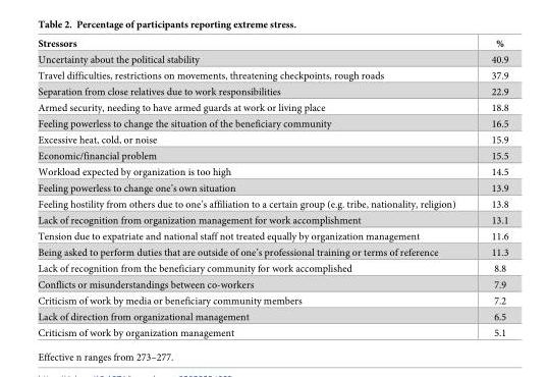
<table><thead><tr><td>Stressors</td><td>%</td></tr></thead><tbody><tr><td>Uncertainty about the political stability</td><td>40.9</td></tr><tr><td>Travel difficulties, restrictions on movements, threatening checkpoints, rough roads</td><td>37.9</td></tr><tr><td>Separation from close relatives due to work responsibilities</td><td>22.9</td></tr><tr><td>Armed security, needing to have armed guards at work or living place</td><td>18.8</td></tr><tr><td>Feeling powerless to change the situation of the beneficiary community</td><td>16.5</td></tr><tr><td>Excessive heat, cold, or noise</td><td>15.9</td></tr><tr><td>Economic/financial problem</td><td>15.5</td></tr><tr><td>Workload expected by organization is too high</td><td>14.5</td></tr><tr><td>Feeling powerless to change one’s own situation</td><td>13.9</td></tr><tr><td>Feeling hostility from others due to one’s affiliation to a certain group (e.g. tribe, nationality, religion)</td><td>13.8</td></tr><tr><td>Lack of recognition from organization management for work accomplishment</td><td>13.1</td></tr><tr><td>Tension due to expatriate and national staff not treated equally by organization management</td><td>11.6</td></tr><tr><td>Being asked to perform duties that are outside of one’s professional training or terms of reference</td><td>11.3</td></tr><tr><td>Lack of recognition from the beneficiary community for work accomplished</td><td>8.8</td></tr><tr><td>Conflicts or misunderstandings between co-workers</td><td>7.9</td></tr><tr><td>Criticism of work by media or beneficiary community members</td><td>7.2</td></tr><tr><td>Lack of direction from organizational management</td><td>6.5</td></tr><tr><td>Criticism of work by organization management</td><td>5.1</td></tr></tbody></table>